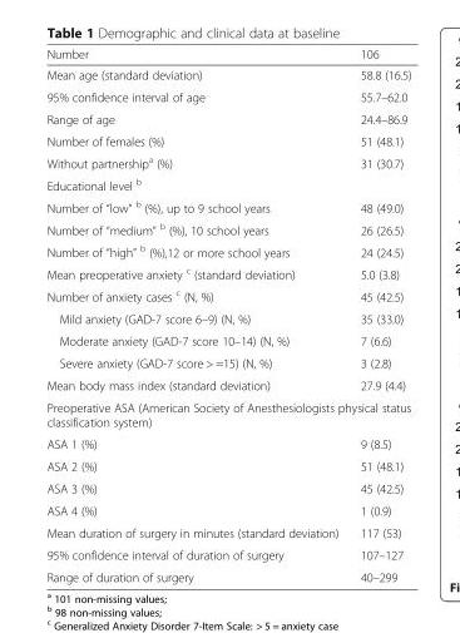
<table><thead><tr><td>Number</td><td>106</td></tr></thead><tbody><tr><td>Mean age (standard deviation)</td><td>58.8 (16.5)</td></tr><tr><td>95% confidence interval of age</td><td>55.7–62.0</td></tr><tr><td>Range of age</td><td>24.4–86.9</td></tr><tr><td>Number of females (%)</td><td>51 (48.1)</td></tr><tr><td>Without partnership<sup>a</sup> (%)</td><td>31 (30.7)</td></tr><tr><td colspan="2">Educational level <sup>b</sup></td></tr><tr><td>Number of “low” <sup>b</sup> (%), up to 9 school years</td><td>48 (49.0)</td></tr><tr><td>Number of “medium” <sup>b</sup> (%), 10 school years</td><td>26 (26.5)</td></tr><tr><td>Number of “high” <sup>b</sup> (%),12 or more school years</td><td>24 (24.5)</td></tr><tr><td>Mean preoperative anxiety <sup>c</sup> (standard deviation)</td><td>5.0 (3.8)</td></tr><tr><td>Number of anxiety cases <sup>c</sup> (N, %)</td><td>45 (42.5)</td></tr><tr><td>Mild anxiety (GAD-7 score 6–9) (N, %)</td><td>35 (33.0)</td></tr><tr><td>Moderate anxiety (GAD-7 score 10–14) (N, %)</td><td>7 (6.6)</td></tr><tr><td>Severe anxiety (GAD-7 score &gt; =15) (N, %)</td><td>3 (2.8)</td></tr><tr><td>Mean body mass index (standard deviation)</td><td>27.9 (4.4)</td></tr><tr><td colspan="2">Preoperative ASA (American Society of Anesthesiologists physical status classification system)</td></tr><tr><td>ASA 1 (%)</td><td>9 (8.5)</td></tr><tr><td>ASA 2 (%)</td><td>51 (48.1)</td></tr><tr><td>ASA 3 (%)</td><td>45 (42.5)</td></tr><tr><td>ASA 4 (%)</td><td>1 (0.9)</td></tr><tr><td>Mean duration of surgery in minutes (standard deviation)</td><td>117 (53)</td></tr><tr><td>95% confidence interval of duration of surgery</td><td>107–127</td></tr><tr><td>Range of duration of surgery</td><td>40–299</td></tr></tbody></table>